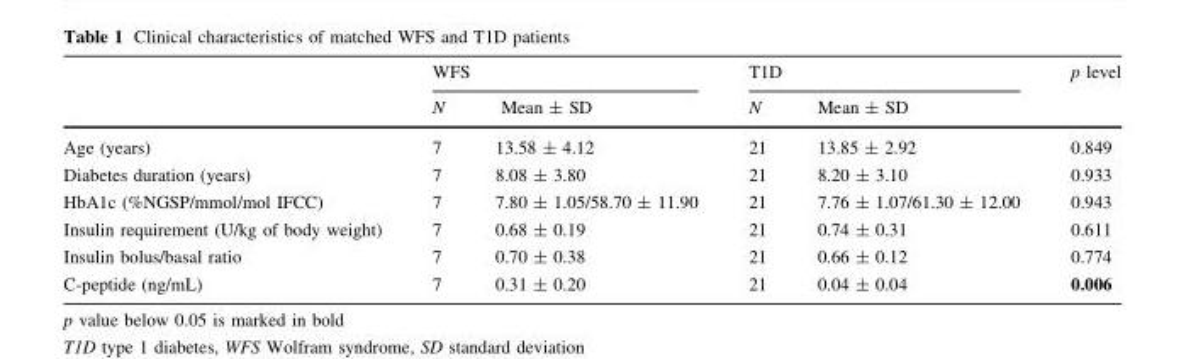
<table><thead><tr><td rowspan="2"></td><td colspan="2">WFS</td><td colspan="2">T1D</td><td rowspan="2">p level</td></tr><tr><td>N</td><td>Mean ± SD</td><td>N</td><td>Mean ± SD</td></tr></thead><tbody><tr><td>Age (years)</td><td>7</td><td>13.58 ± 4.12</td><td>21</td><td>13.85 ± 2.92</td><td>0.849</td></tr><tr><td>Diabetes duration (years)</td><td>7</td><td>8.08 ± 3.80</td><td>21</td><td>8.20 ± 3.10</td><td>0.933</td></tr><tr><td>HbA1c (%NGSP/mmol/mol IFCC)</td><td>7</td><td>7.80 ± 1.05/58.70 ± 11.90</td><td>21</td><td>7.76 ± 1.07/61.30 ± 12.00</td><td>0.943</td></tr><tr><td>Insulin requirement (U/kg of body weight)</td><td>7</td><td>0.68 ± 0.19</td><td>21</td><td>0.74 ± 0.31</td><td>0.611</td></tr><tr><td>Insulin bolus/basal ratio</td><td>7</td><td>0.70 ± 0.38</td><td>21</td><td>0.66 ± 0.12</td><td>0.774</td></tr><tr><td>C-peptide (ng/mL)</td><td>7</td><td>0.31 ± 0.20</td><td>21</td><td>0.04 ± 0.04</td><td>0.006</td></tr></tbody></table>